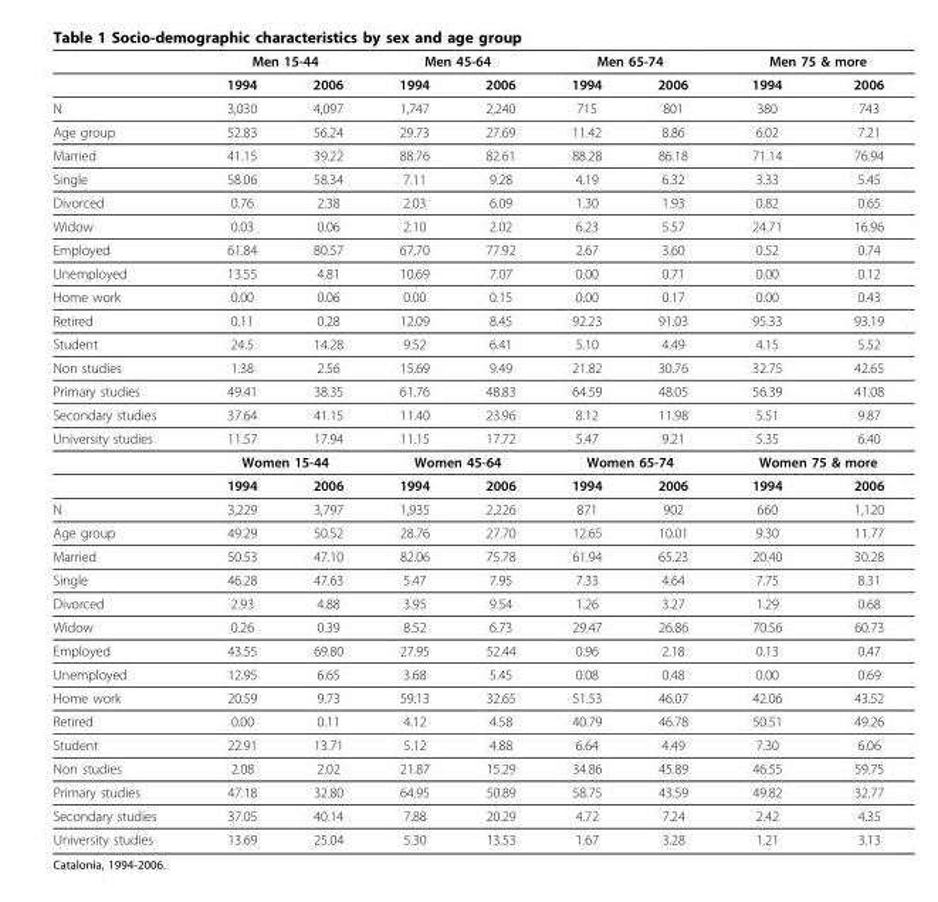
<table><thead><tr><td rowspan="2"></td><td colspan="2">Men 15-44</td><td colspan="2">Men 45-64</td><td colspan="2">Men 65-74</td><td colspan="2">Men 75 &amp; more</td></tr><tr><td>1994</td><td>2006</td><td>1994</td><td>2006</td><td>1994</td><td>2006</td><td>1994</td><td>2006</td></tr></thead><tbody><tr><td>N</td><td>3,030</td><td>4,097</td><td>1,747</td><td>2,240</td><td>715</td><td>801</td><td>380</td><td>743</td></tr><tr><td>Age group</td><td>52.83</td><td>56.24</td><td>29.73</td><td>27.69</td><td>11.42</td><td>8.86</td><td>6.02</td><td>7.21</td></tr><tr><td>Married</td><td>41.15</td><td>39.22</td><td>88.76</td><td>82.61</td><td>88.28</td><td>86.18</td><td>71.14</td><td>76.94</td></tr><tr><td>Single</td><td>58.06</td><td>58.34</td><td>7.11</td><td>9.28</td><td>4.19</td><td>6.32</td><td>3.33</td><td>5.45</td></tr><tr><td>Divorced</td><td>0.76</td><td>2.38</td><td>2.03</td><td>6.09</td><td>1.30</td><td>1.93</td><td>0.82</td><td>0.65</td></tr><tr><td>Widow</td><td>0.03</td><td>0.06</td><td>2.10</td><td>2.02</td><td>6.23</td><td>5.57</td><td>24.71</td><td>16.96</td></tr><tr><td>Employed</td><td>61.84</td><td>80.57</td><td>67.70</td><td>77.92</td><td>2.67</td><td>3.60</td><td>0.52</td><td>0.74</td></tr><tr><td>Unemployed</td><td>13.55</td><td>4.81</td><td>10.69</td><td>7.07</td><td>0.00</td><td>0.71</td><td>0.00</td><td>0.12</td></tr><tr><td>Home work</td><td>0.00</td><td>0.06</td><td>0.00</td><td>0.15</td><td>0.00</td><td>0.17</td><td>0.00</td><td>0.43</td></tr><tr><td>Retired</td><td>0.11</td><td>0.28</td><td>12.09</td><td>8.45</td><td>92.23</td><td>91.03</td><td>95.33</td><td>93.19</td></tr><tr><td>Student</td><td>24.5</td><td>14.28</td><td>9.52</td><td>6.41</td><td>5.10</td><td>4.49</td><td>4.15</td><td>5.52</td></tr><tr><td>Non studies</td><td>1.38</td><td>2.56</td><td>15.69</td><td>9.49</td><td>21.82</td><td>30.76</td><td>32.75</td><td>42.65</td></tr><tr><td>Primary studies</td><td>49.41</td><td>38.35</td><td>61.76</td><td>48.83</td><td>64.59</td><td>48.05</td><td>56.39</td><td>41.08</td></tr><tr><td>Secondary studies</td><td>37.64</td><td>41.15</td><td>11.40</td><td>23.96</td><td>8.12</td><td>11.98</td><td>5.51</td><td>9.87</td></tr><tr><td rowspan="3">University studies</td><td>11.57</td><td>17.94</td><td>11.15</td><td>17.72</td><td>5.47</td><td>9.21</td><td>5.35</td><td>6.40</td></tr><tr><td colspan="2">Women 15-44</td><td colspan="2">Women 45-64</td><td colspan="2">Women 65-74</td><td colspan="2">Women 75 &amp; more</td></tr><tr><td>1994</td><td>2006</td><td>1994</td><td>2006</td><td>1994</td><td>2006</td><td>1994</td><td>2006</td></tr><tr><td>N</td><td>3,229</td><td>3,797</td><td>1,935</td><td>2,226</td><td>871</td><td>902</td><td>660</td><td>1,120</td></tr><tr><td>Age group</td><td>49.29</td><td>50.52</td><td>28.76</td><td>27.70</td><td>12.65</td><td>10.01</td><td>9.30</td><td>11.77</td></tr><tr><td>Married</td><td>50.53</td><td>47.10</td><td>82.06</td><td>75.78</td><td>61.94</td><td>65.23</td><td>20.40</td><td>30.28</td></tr><tr><td>Single</td><td>46.28</td><td>47.63</td><td>5.47</td><td>7.95</td><td>7.33</td><td>4.64</td><td>7.75</td><td>8.31</td></tr><tr><td>Divorced</td><td>2.93</td><td>4.88</td><td>3.95</td><td>9.54</td><td>1.26</td><td>3.27</td><td>1.29</td><td>0.68</td></tr><tr><td>Widow</td><td>0.26</td><td>0.39</td><td>8.52</td><td>6.73</td><td>29.47</td><td>26.86</td><td>70.56</td><td>60.73</td></tr><tr><td>Employed</td><td>43.55</td><td>69.80</td><td>27.95</td><td>52.44</td><td>0.96</td><td>2.18</td><td>0.13</td><td>0.47</td></tr><tr><td>Unemployed</td><td>12.95</td><td>6.65</td><td>3.68</td><td>5.45</td><td>0.08</td><td>0.48</td><td>0.00</td><td>0.69</td></tr><tr><td>Home work</td><td>20.59</td><td>9.73</td><td>59.13</td><td>32.65</td><td>51.53</td><td>46.07</td><td>42.06</td><td>43.52</td></tr><tr><td>Retired</td><td>0.00</td><td>0.11</td><td>4.12</td><td>4.58</td><td>40.79</td><td>46.78</td><td>50.51</td><td>49.26</td></tr><tr><td>Student</td><td>22.91</td><td>13.71</td><td>5.12</td><td>4.88</td><td>6.64</td><td>4.49</td><td>7.30</td><td>6.06</td></tr><tr><td>Non studies</td><td>2.08</td><td>2.02</td><td>21.87</td><td>15.29</td><td>34.86</td><td>45.89</td><td>46.55</td><td>59.75</td></tr><tr><td>Primary studies</td><td>47.18</td><td>32.80</td><td>64.95</td><td>50.89</td><td>58.75</td><td>43.59</td><td>49.82</td><td>32.77</td></tr><tr><td>Secondary studies</td><td>37.05</td><td>40.14</td><td>7.88</td><td>20.29</td><td>4.72</td><td>7.24</td><td>2.42</td><td>4.35</td></tr><tr><td>University studies</td><td>13.69</td><td>25.04</td><td>5.30</td><td>13.53</td><td>1.67</td><td>3.28</td><td>1.21</td><td>3.13</td></tr></tbody></table>